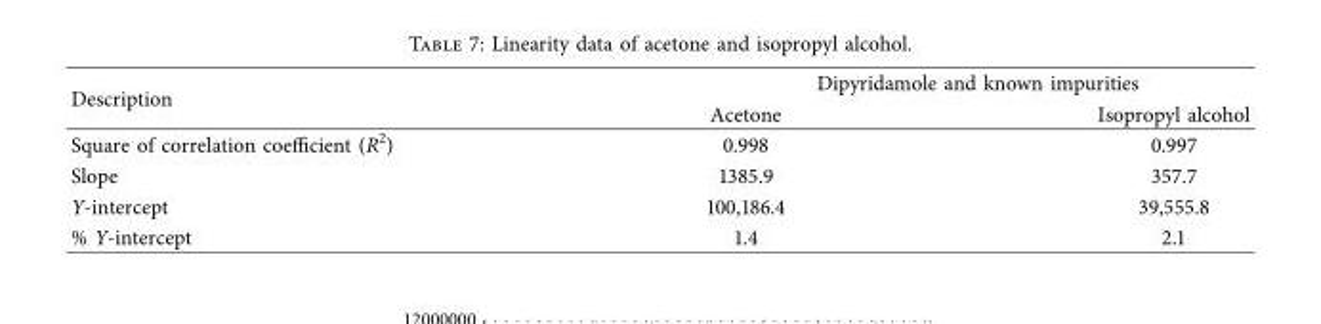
<table><thead><tr><td rowspan="2">Description</td><td colspan="2">Dipyridamole and known impurities</td></tr><tr><td>Acetone</td><td>Isopropyl alcohol</td></tr></thead><tbody><tr><td>Square of correlation coefcient (R2)</td><td>0.998</td><td>0.997</td></tr><tr><td>Slope</td><td>1385.9</td><td>357.7</td></tr><tr><td>Y-intercept</td><td>100,186.4</td><td>39,555.8</td></tr><tr><td>% Y-intercept</td><td>1.4</td><td>2.1</td></tr></tbody></table>